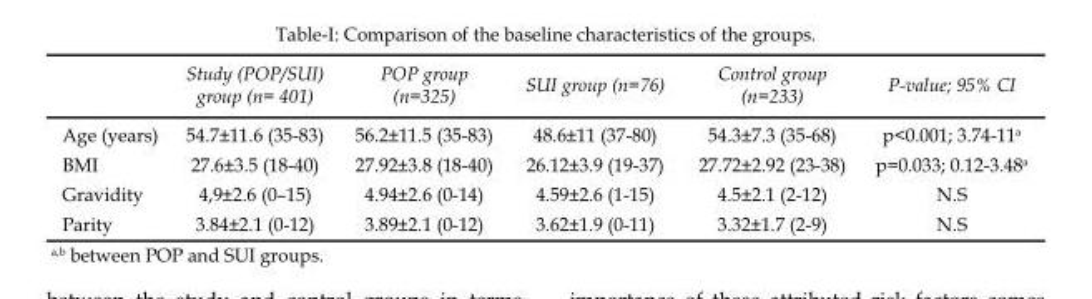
<table><thead><tr><td></td><td>Study (POP/SUI) group (n= 401)</td><td>POP group (n=325)</td><td>SUI group (n=76)</td><td>Control group (n=233)</td><td>P-value; 95% CI</td></tr></thead><tbody><tr><td>Age (years)</td><td>54.7±11.6 (35-83)</td><td>56.2±11.5 (35-83)</td><td>48.6±11 (37-80)</td><td>54.3±7.3 (35-68)</td><td>p&lt;0.001; 3.74-11<sup>a</sup></td></tr><tr><td>BMI</td><td>27.6±3.5 (18-40)</td><td>27.92±3.8 (18-40)</td><td>26.12±3.9 (19-37)</td><td>27.72±2.92 (23-38)</td><td>p=0.033; 0.12-3.48<sup>a</sup></td></tr><tr><td>Gravidity</td><td>4,9±2.6 (0–15)</td><td>4.94±2.6 (0-14)</td><td>4.59±2.6 (1-15)</td><td>4.5±2.1 (2-12)</td><td>N.S</td></tr><tr><td>Parity</td><td>3.84±2.1 (0-12)</td><td>3.89±2.1 (0-12)</td><td>3.62±1.9 (0-11)</td><td>3.32±1.7 (2-9)</td><td>N.S</td></tr></tbody></table>